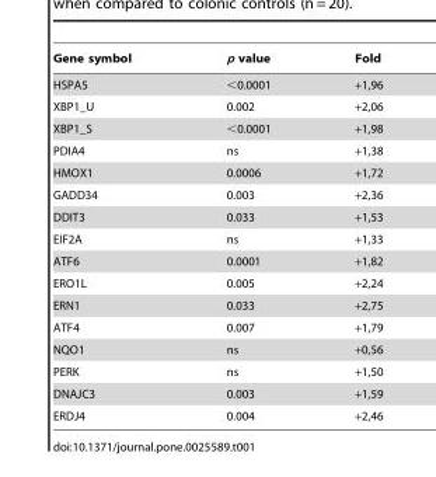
<table><thead><tr><td>Gene symbol</td><td>p value</td><td>Fold</td></tr></thead><tbody><tr><td>HSPA5</td><td>&lt;0.0001</td><td>+1,96</td></tr><tr><td>XBP1_U</td><td>0.002</td><td>+2,06</td></tr><tr><td>XBP1_S</td><td>&lt;0.0001</td><td>+1,98</td></tr><tr><td>PDIA4</td><td>ns</td><td>+1,38</td></tr><tr><td>HMOX1</td><td>0.0006</td><td>+1,72</td></tr><tr><td>GADD34</td><td>0.003</td><td>+2,36</td></tr><tr><td>DDIT3</td><td>0.033</td><td>+1,53</td></tr><tr><td>EIF2A</td><td>ns</td><td>+1,33</td></tr><tr><td>ATF6</td><td>0.0001</td><td>+1,82</td></tr><tr><td>ERO1L</td><td>0.005</td><td>+2,24</td></tr><tr><td>ERN1</td><td>0.033</td><td>+2,75</td></tr><tr><td>ATF4</td><td>0.007</td><td>+1,79</td></tr><tr><td>NQO1</td><td>ns</td><td>+0,56</td></tr><tr><td>PERK</td><td>ns</td><td>+1,50</td></tr><tr><td>DNAJC3</td><td>0.003</td><td>+1,59</td></tr><tr><td>ERDJ4</td><td>0.004</td><td>+2,46</td></tr></tbody></table>